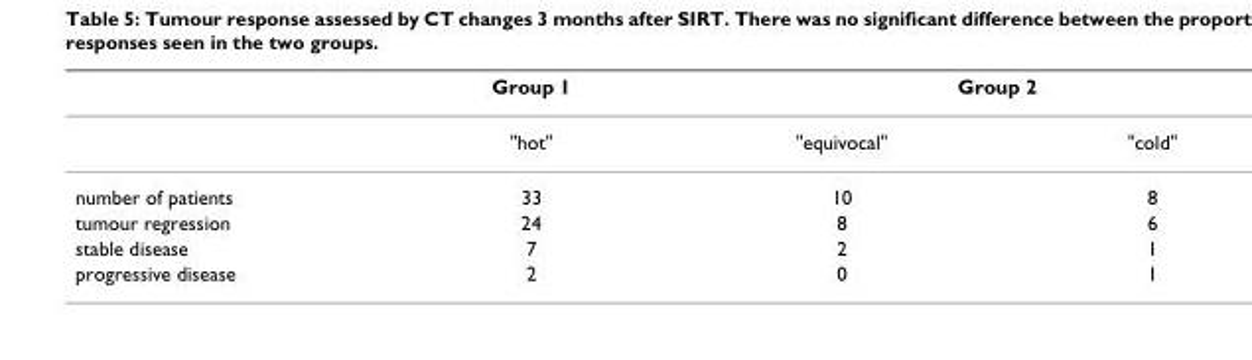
<table><thead><tr><td rowspan="2"></td><td rowspan="2">Group 1 &quot;hot&quot;</td><td colspan="2">Group 2</td></tr><tr><td>&quot;equivocal&quot;</td><td>&quot;cold&quot;</td></tr></thead><tbody><tr><td>number of patients</td><td>33</td><td>10</td><td>8</td></tr><tr><td>tumour regression</td><td>24</td><td>8</td><td>6</td></tr><tr><td>stable disease</td><td>7</td><td>2</td><td>1</td></tr><tr><td>progressive disease</td><td>2</td><td>0</td><td>1</td></tr></tbody></table>